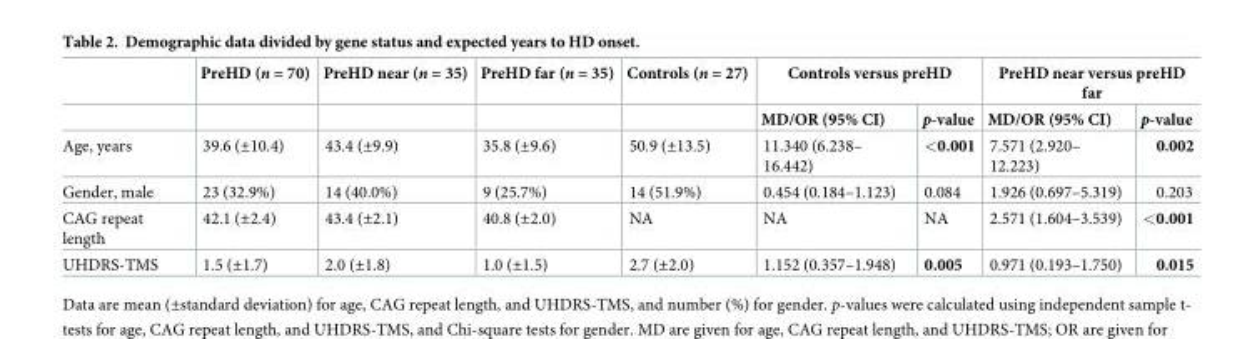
<table><thead><tr><td rowspan="2"></td><td rowspan="2">PreHD (n = 70)</td><td rowspan="2">PreHD near (n = 35)</td><td rowspan="2">PreHD far (n = 35)</td><td rowspan="2">Controls (n = 27)</td><td colspan="2">Controls versus preHD</td><td colspan="2">PreHD near versus preHD far</td></tr><tr><td>MD/OR (95% CI)</td><td>p-value</td><td>MD/OR (95% CI)</td><td>p-value</td></tr></thead><tbody><tr><td>Age, years</td><td>39.6 (±10.4)</td><td>43.4 (±9.9)</td><td>35.8 (±9.6)</td><td>50.9 (±13.5)</td><td>11.340 (6.238– 16.442)</td><td>&lt;0.001</td><td>7.571 (2.920– 12.223)</td><td>0.002</td></tr><tr><td>Gender, male</td><td>23 (32.9%)</td><td>14 (40.0%)</td><td>9 (25.7%)</td><td>14 (51.9%)</td><td>0.454 (0.184–1.123)</td><td>0.084</td><td>1.926 (0.697–5.319)</td><td>0.203</td></tr><tr><td>CAG repeat length</td><td>42.1 (±2.4)</td><td>43.4 (±2.1)</td><td>40.8 (±2.0)</td><td>NA</td><td>NA</td><td>NA</td><td>2.571 (1.604–3.539)</td><td>&lt;0.001</td></tr><tr><td>UHDRS-TMS</td><td>1.5 (±1.7)</td><td>2.0 (±1.8)</td><td>1.0 (±1.5)</td><td>2.7 (±2.0)</td><td>1.152 (0.357–1.948)</td><td>0.005</td><td>0.971 (0.193–1.750)</td><td>0.015</td></tr></tbody></table>